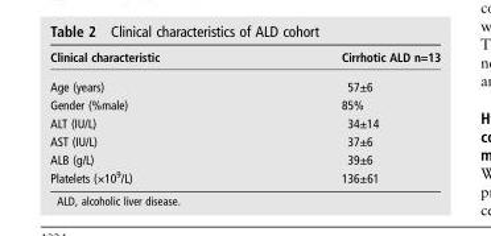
<table><thead><tr><td>Clinical characteristic</td><td>Cirrhotic ALD n=13</td></tr></thead><tbody><tr><td>Age (years)</td><td>57±6</td></tr><tr><td>Gender (%male)</td><td>85%</td></tr><tr><td>ALT (IU/L)</td><td>34±14</td></tr><tr><td>AST (IU/L)</td><td>37±6</td></tr><tr><td>ALB (g/L)</td><td>39±6</td></tr><tr><td>Platelets (×10<sup>9</sup>/L)</td><td>136±61</td></tr></tbody></table>